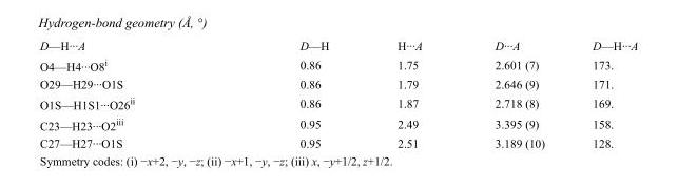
<table><tbody><tr><td>D—H···A</td><td>D—H</td><td>H···A</td><td>D···A</td><td>D—H···A</td></tr><tr><td>O4—H4···O8<sup>i</sup></td><td>0.86</td><td>1.75</td><td>2.601 (7)</td><td>173.</td></tr><tr><td>O29—H29···O1S</td><td>0.86</td><td>1.79</td><td>2.646 (9)</td><td>171.</td></tr><tr><td>O1S—H1S1···O26<sup>ii</sup></td><td>0.86</td><td>1.87</td><td>2.718 (8)</td><td>169.</td></tr><tr><td>C23—H23···O2<sup>iii</sup></td><td>0.95</td><td>2.49</td><td>3.395 (9)</td><td>158.</td></tr><tr><td>C27—H27···O1S</td><td>0.95</td><td>2.51</td><td>3.189 (10)</td><td>128.</td></tr></tbody></table>